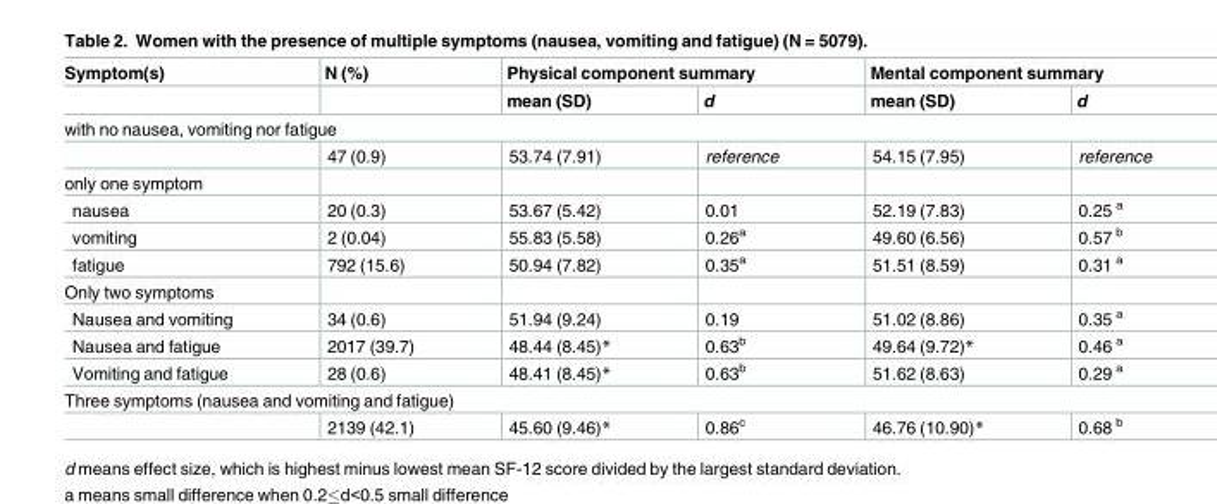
<table><thead><tr><td rowspan="2">Symptom(s)</td><td rowspan="2">N (%)</td><td colspan="2">Physical component summary</td><td colspan="2">Mental component summary</td></tr><tr><td>mean (SD)</td><td>d</td><td>mean (SD)</td><td>d</td></tr></thead><tbody><tr><td colspan="6">with no nausea, vomiting nor fatigue</td></tr><tr><td></td><td>47 (0.9)</td><td>53.74 (7.91)</td><td>reference</td><td>54.15 (7.95)</td><td>reference</td></tr><tr><td colspan="6">only one symptom</td></tr><tr><td>nausea</td><td>20 (0.3)</td><td>53.67 (5.42)</td><td>0.01</td><td>52.19 (7.83)</td><td>0.25 <sup>a</sup></td></tr><tr><td>vomiting</td><td>2 (0.04)</td><td>55.83 (5.58)</td><td>0.26<sup>a</sup></td><td>49.60 (6.56)</td><td>0.57 <sup>b</sup></td></tr><tr><td>fatigue</td><td>792 (15.6)</td><td>50.94 (7.82)</td><td>0.35<sup>a</sup></td><td>51.51 (8.59)</td><td>0.31 <sup>a</sup></td></tr><tr><td colspan="6">Only two symptoms</td></tr><tr><td>Nausea and vomiting</td><td>34 (0.6)</td><td>51.94 (9.24)</td><td>0.19</td><td>51.02 (8.86)</td><td>0.35 <sup>a</sup></td></tr><tr><td>Nausea and fatigue</td><td>2017 (39.7)</td><td>48.44 (8.45)*</td><td>0.63<sup>b</sup></td><td>49.64 (9.72)*</td><td>0.46 <sup>a</sup></td></tr><tr><td>Vomiting and fatigue</td><td>28 (0.6)</td><td>48.41 (8.45)*</td><td>0.63<sup>b</sup></td><td>51.62 (8.63)</td><td>0.29 <sup>a</sup></td></tr><tr><td colspan="6">Three symptoms (nausea and vomiting and fatigue)</td></tr><tr><td></td><td>2139 (42.1)</td><td>45.60 (9.46)*</td><td>0.86<sup>c</sup></td><td>46.76 (10.90)*</td><td>0.68 <sup>b</sup></td></tr></tbody></table>